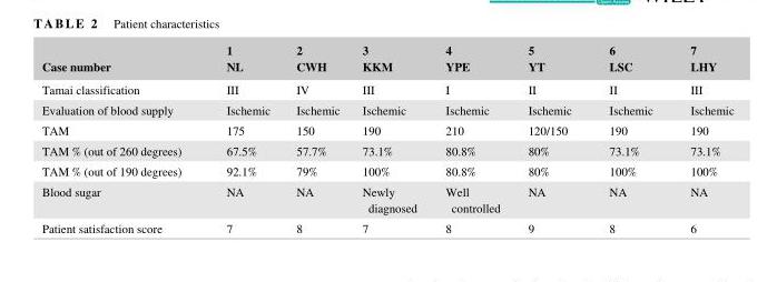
<table><thead><tr><td>Case number</td><td>1 NL</td><td>2 CWH</td><td>3 KKM</td><td>4 YPE</td><td>5 YT</td><td>6 LSC</td><td>7 LHY</td></tr></thead><tbody><tr><td>Tamai classification</td><td>III</td><td>IV</td><td>III</td><td>I</td><td>II</td><td>II</td><td>III</td></tr><tr><td>Evaluation of blood supply</td><td>Ischemic</td><td>Ischemic</td><td>Ischemic</td><td>Ischemic</td><td>Ischemic</td><td>Ischemic</td><td>Ischemic</td></tr><tr><td>TAM</td><td>175</td><td>150</td><td>190</td><td>210</td><td>120/150</td><td>190</td><td>190</td></tr><tr><td>TAM % (out of 260 degrees)</td><td>67.5%</td><td>57.7%</td><td>73.1%</td><td>80.8%</td><td>80%</td><td>73.1%</td><td>73.1%</td></tr><tr><td>TAM % (out of 190 degrees)</td><td>92.1%</td><td>79%</td><td>100%</td><td>80.8%</td><td>80%</td><td>100%</td><td>100%</td></tr><tr><td>Blood sugar</td><td>NA</td><td>NA</td><td>Newly diagnosed</td><td>Well controlled</td><td>NA</td><td>NA</td><td>NA</td></tr><tr><td>Patient satisfaction score</td><td>7</td><td>8</td><td>7</td><td>8</td><td>9</td><td>8</td><td>6</td></tr></tbody></table>